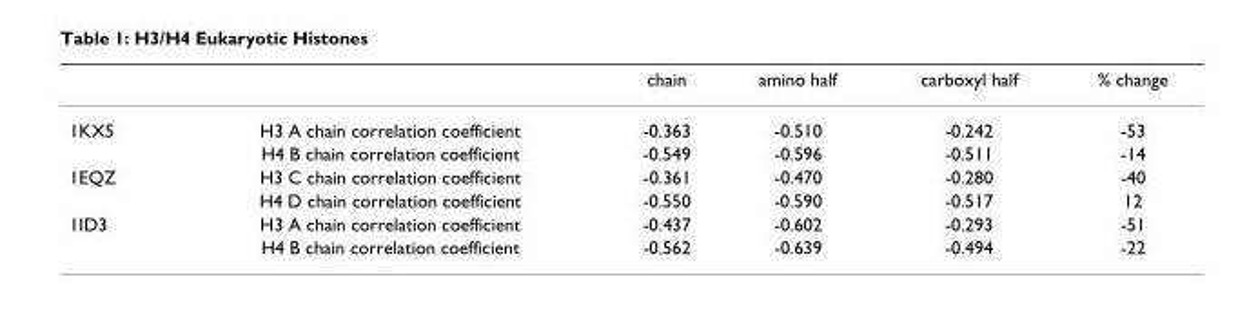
<table><thead><tr><td></td><td></td><td>chain</td><td>amino half</td><td>carboxyl half</td><td>% change</td></tr></thead><tbody><tr><td rowspan="2">1KX5</td><td>H3 A chain correlation coefficient</td><td>-0.363</td><td>-0.510</td><td>-0.242</td><td>-53</td></tr><tr><td>H4 B chain correlation coefficient</td><td>-0.549</td><td>-0.596</td><td>-0.511</td><td>-14</td></tr><tr><td rowspan="2">1EQZ</td><td>H3 C chain correlation coefficient</td><td>-0.361</td><td>-0.470</td><td>-0.280</td><td>-40</td></tr><tr><td>H4 D chain correlation coefficient</td><td>-0.550</td><td>-0.590</td><td>-0.517</td><td>12</td></tr><tr><td rowspan="2">1ID3</td><td>H3 A chain correlation coefficient</td><td>-0.437</td><td>-0.602</td><td>-0.293</td><td>-51</td></tr><tr><td>H4 B chain correlation coefficient</td><td>-0.562</td><td>-0.639</td><td>-0.494</td><td>-22</td></tr></tbody></table>